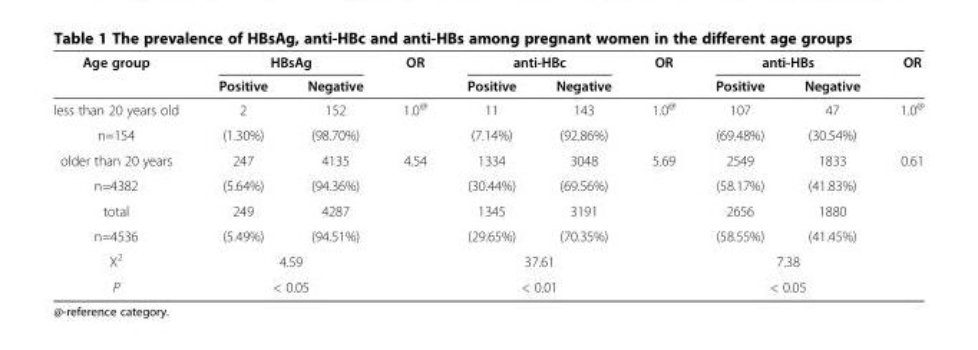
<table><thead><tr><td rowspan="2">Age group</td><td colspan="2">HBsAg</td><td rowspan="2">OR</td><td colspan="2">anti-HBc</td><td rowspan="2">OR</td><td colspan="2">anti-HBs</td><td rowspan="2">OR</td></tr><tr><td>Positive</td><td>Negative</td><td>Positive</td><td>Negative</td><td>Positive</td><td>Negative</td></tr></thead><tbody><tr><td>less than 20 years old</td><td>2</td><td>152</td><td>1.0<sup>@</sup></td><td>11</td><td>143</td><td>1.0<sup>@</sup></td><td>107</td><td>47</td><td>1.0<sup>@</sup></td></tr><tr><td>n=154</td><td>(1.30%)</td><td>(98.70%)</td><td></td><td>(7.14%)</td><td>(92.86%)</td><td></td><td>(69.48%)</td><td>(30.54%)</td><td></td></tr><tr><td>older than 20 years</td><td>247</td><td>4135</td><td>4.54</td><td>1334</td><td>3048</td><td>5.69</td><td>2549</td><td>1833</td><td>0.61</td></tr><tr><td>n=4382</td><td>(5.64%)</td><td>(94.36%)</td><td></td><td>(30.44%)</td><td>(69.56%)</td><td></td><td>(58.17%)</td><td>(41.83%)</td><td></td></tr><tr><td>total</td><td>249</td><td>4287</td><td></td><td>1345</td><td>3191</td><td></td><td>2656</td><td>1880</td><td></td></tr><tr><td>n=4536</td><td>(5.49%)</td><td>(94.51%)</td><td></td><td>(29.65%)</td><td>(70.35%)</td><td></td><td>(58.55%)</td><td>(41.45%)</td><td></td></tr><tr><td>X<sup>2</sup></td><td colspan="2">4.59</td><td></td><td colspan="2">37.61</td><td></td><td colspan="2">7.38</td><td></td></tr><tr><td>P</td><td colspan="2">&lt; 0.05</td><td></td><td colspan="2">&lt; 0.01</td><td></td><td colspan="2">&lt; 0.05</td><td></td></tr></tbody></table>